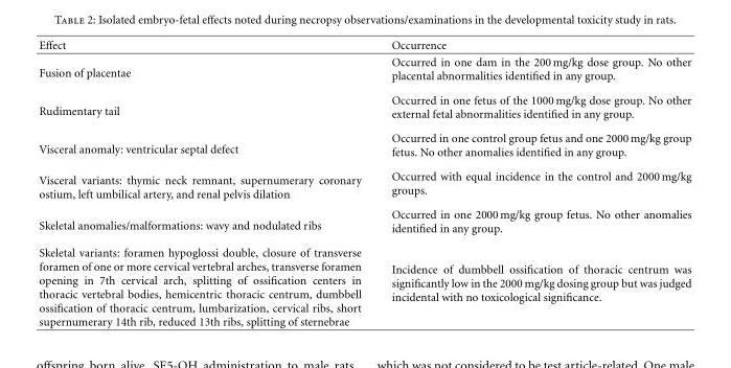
<table><thead><tr><td>Effect</td><td>Occurrence</td></tr></thead><tbody><tr><td>Fusion of placentae</td><td>Occurred in one dam in the 200 mg/kg dose group. No other placental abnormalities identified in any group.</td></tr><tr><td>Rudimentary tail</td><td>Occurred in one fetus of the 1000 mg/kg dose group. No other external fetal abnormalities identified in any group.</td></tr><tr><td>Visceral anomaly: ventricular septal defect</td><td>Occurred in one control group fetus and one 2000 mg/kg group fetus. No other anomalies identified in any group.</td></tr><tr><td>Visceral variants: thymic neck remnant, supernumerary coronary ostium, left umbilical artery, and renal pelvis dilation</td><td>Occurred with equal incidence in the control and 2000 mg/kg groups.</td></tr><tr><td>Skeletal anomalies/malformations: wavy and nodulated ribs</td><td>Occurred in one 2000 mg/kg group fetus. No other anomalies identified in any group.</td></tr><tr><td>Skeletal variants: foramen hypoglossi double, closure of transverse foramen of one or more cervical vertebral arches, transverse foramen opening in 7th cervical arch, splitting of ossification centers in thoracic vertebral bodies, hemicentric thoracic centrum, dumbbell ossification of thoracic centrum, lumbarization, cervical ribs, short supernumerary 14th rib, reduced 13th ribs, splitting of sternebrae</td><td>Incidence of dumbbell ossification of thoracic centrum was significantly low in the 2000 mg/kg dosing group but was judged incidental with no toxicological significance.</td></tr></tbody></table>